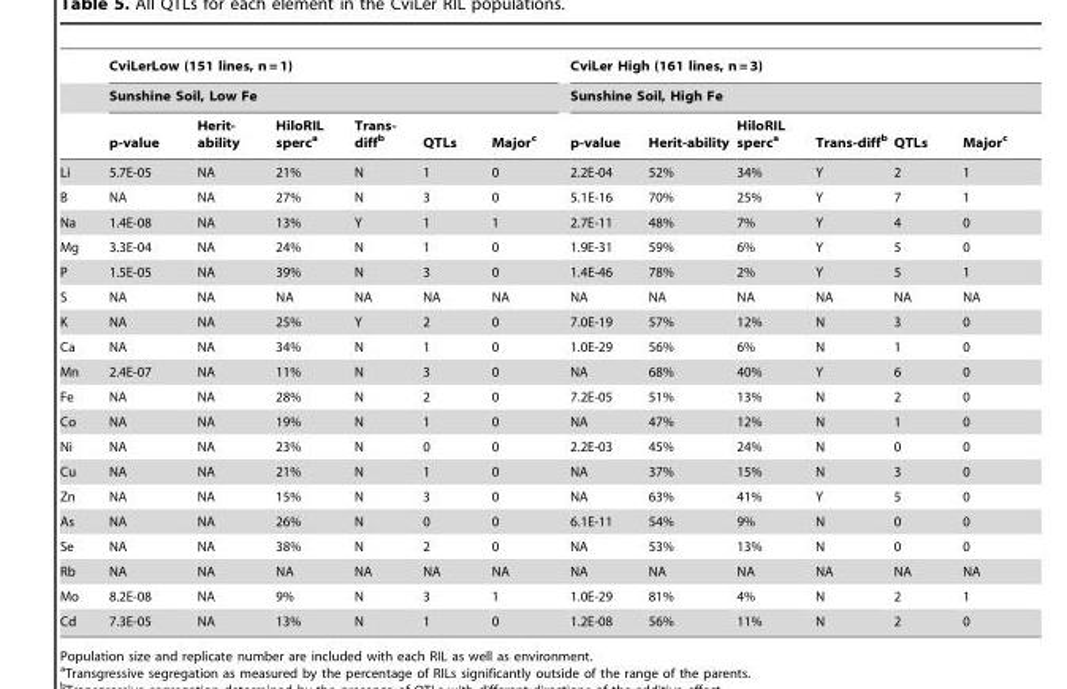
<table><thead><tr><td rowspan="3"></td><td rowspan="2" colspan="6">CviLerLow (151 lines, n = 1) Sunshine Soil, Low Fe</td><td rowspan="2" colspan="6">CviLer High (161 lines, n = 3) Sunshine Soil, High Fe</td></tr><tr></tr><tr><td>p-value</td><td>Herit- ability</td><td>HiloRIL sperc<sup>a</sup></td><td>Trans- diff<sup>b</sup></td><td>QTLs</td><td>Major<sup>c</sup></td><td>p-value</td><td>Herit-ability</td><td>HiloRIL sperc<sup>a</sup></td><td>Trans-diff<sup>b</sup></td><td>QTLs</td><td>Major<sup>c</sup></td></tr></thead><tbody><tr><td>Li</td><td>5.7E-05</td><td>NA</td><td>21%</td><td>N</td><td>1</td><td>0</td><td>2.2E-04</td><td>52%</td><td>34%</td><td>Y</td><td>2</td><td>1</td></tr><tr><td>B</td><td>NA</td><td>NA</td><td>27%</td><td>N</td><td>3</td><td>0</td><td>5.1E-16</td><td>70%</td><td>25%</td><td>Y</td><td>7</td><td>1</td></tr><tr><td>Na</td><td>1.4E-08</td><td>NA</td><td>13%</td><td>Y</td><td>1</td><td>1</td><td>2.7E-11</td><td>48%</td><td>7%</td><td>Y</td><td>4</td><td>0</td></tr><tr><td>Mg</td><td>3.3E-04</td><td>NA</td><td>24%</td><td>N</td><td>1</td><td>0</td><td>1.9E-31</td><td>59%</td><td>6%</td><td>Y</td><td>5</td><td>0</td></tr><tr><td>P</td><td>1.5E-05</td><td>NA</td><td>39%</td><td>N</td><td>3</td><td>0</td><td>1.4E-46</td><td>78%</td><td>2%</td><td>Y</td><td>5</td><td>1</td></tr><tr><td>S</td><td>NA</td><td>NA</td><td>NA</td><td>NA</td><td>NA</td><td>NA</td><td>NA</td><td>NA</td><td>NA</td><td>NA</td><td>NA</td><td>NA</td></tr><tr><td>K</td><td>NA</td><td>NA</td><td>25%</td><td>Y</td><td>2</td><td>0</td><td>7.0E-19</td><td>57%</td><td>12%</td><td>N</td><td>3</td><td>0</td></tr><tr><td>Ca</td><td>NA</td><td>NA</td><td>34%</td><td>N</td><td>1</td><td>0</td><td>1.0E-29</td><td>56%</td><td>6%</td><td>N</td><td>1</td><td>0</td></tr><tr><td>Mn</td><td>2.4E-07</td><td>NA</td><td>11%</td><td>N</td><td>3</td><td>0</td><td>NA</td><td>68%</td><td>40%</td><td>Y</td><td>6</td><td>0</td></tr><tr><td>Fe</td><td>NA</td><td>NA</td><td>28%</td><td>N</td><td>2</td><td>0</td><td>7.2E-05</td><td>51%</td><td>13%</td><td>N</td><td>2</td><td>0</td></tr><tr><td>Co</td><td>NA</td><td>NA</td><td>19%</td><td>N</td><td>1</td><td>0</td><td>NA</td><td>47%</td><td>12%</td><td>N</td><td>1</td><td>0</td></tr><tr><td>Ni</td><td>NA</td><td>NA</td><td>23%</td><td>N</td><td>0</td><td>0</td><td>2.2E-03</td><td>45%</td><td>24%</td><td>N</td><td>0</td><td>0</td></tr><tr><td>Cu</td><td>NA</td><td>NA</td><td>21%</td><td>N</td><td>1</td><td>0</td><td>NA</td><td>37%</td><td>15%</td><td>N</td><td>3</td><td>0</td></tr><tr><td>Zn</td><td>NA</td><td>NA</td><td>15%</td><td>N</td><td>3</td><td>0</td><td>NA</td><td>63%</td><td>41%</td><td>Y</td><td>5</td><td>0</td></tr><tr><td>As</td><td>NA</td><td>NA</td><td>26%</td><td>N</td><td>0</td><td>0</td><td>6.1E-11</td><td>54%</td><td>9%</td><td>N</td><td>0</td><td>0</td></tr><tr><td>Se</td><td>NA</td><td>NA</td><td>38%</td><td>N</td><td>2</td><td>0</td><td>NA</td><td>53%</td><td>13%</td><td>N</td><td>0</td><td>0</td></tr><tr><td>Rb</td><td>NA</td><td>NA</td><td>NA</td><td>NA</td><td>NA</td><td>NA</td><td>NA</td><td>NA</td><td>NA</td><td>NA</td><td>NA</td><td>NA</td></tr><tr><td>Mo</td><td>8.2E-08</td><td>NA</td><td>9%</td><td>N</td><td>3</td><td>1</td><td>1.0E-29</td><td>81%</td><td>4%</td><td>N</td><td>2</td><td>1</td></tr><tr><td>Cd</td><td>7.3E-05</td><td>NA</td><td>13%</td><td>N</td><td>1</td><td>0</td><td>1.2E-08</td><td>56%</td><td>11%</td><td>N</td><td>2</td><td>0</td></tr></tbody></table>